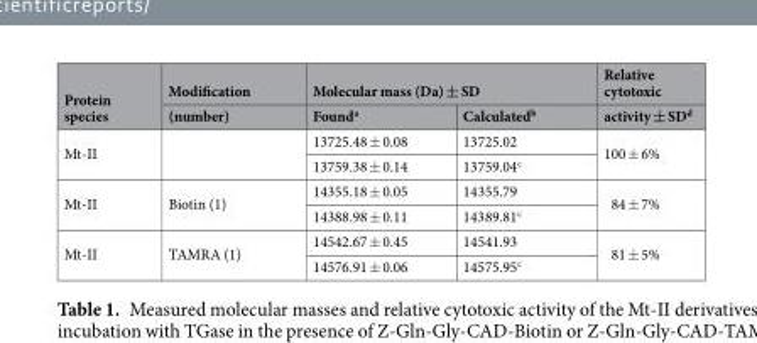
<table><thead><tr><td rowspan="2">Protein species</td><td rowspan="2">Modification (number)</td><td colspan="2">Molecular mass (Da) ± SD</td><td rowspan="2">Relative cytotoxic activity ± SD<sup>d</sup></td></tr><tr><td>Found<sup>a</sup></td><td>Calculated<sup>b</sup></td></tr></thead><tbody><tr><td rowspan="2">Mt-II</td><td rowspan="2"></td><td>13725.48 ± 0.08</td><td>13725.02</td><td rowspan="2">100 ± 6%</td></tr><tr><td>13759.38 ± 0.14</td><td>13759.04<sup>c</sup></td></tr><tr><td rowspan="2">Mt-II</td><td rowspan="2">Biotin (1)</td><td>14355.18 ± 0.05</td><td>14355.79</td><td rowspan="2">84 ± 7%</td></tr><tr><td>14388.98 ± 0.11</td><td>14389.81<sup>c</sup></td></tr><tr><td rowspan="2">Mt-II</td><td rowspan="2">TAMRA (1)</td><td>14542.67 ± 0.45</td><td>14541.93</td><td rowspan="2">81 ± 5%</td></tr><tr><td>14576.91 ± 0.06</td><td>14575.95<sup>c</sup></td></tr></tbody></table>